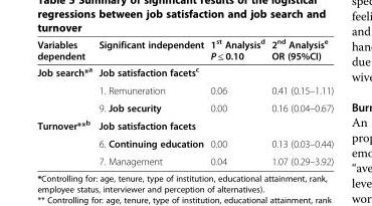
<table><thead><tr><td>Variables dependent</td><td>Significant independent</td><td>1<sup>st</sup> Analysis<sup>d</sup> P ≤ 0.10</td><td>2<sup>nd</sup> Analysis<sup>e</sup> OR (95%CI)</td></tr></thead><tbody><tr><td rowspan="3">Job search*<sup>a</sup></td><td>Job satisfaction facets<sup>c</sup></td><td></td><td></td></tr><tr><td>1. Remuneration</td><td>0.06</td><td>0.41 (0.15–1.11)</td></tr><tr><td>9. Job security</td><td>0.00</td><td>0.16 (0.04–0.67)</td></tr><tr><td rowspan="3">Turnover**<sup>b</sup></td><td>Job satisfaction facets</td><td></td><td></td></tr><tr><td>6. Continuing education</td><td>0.00</td><td>0.13 (0.03–0.44)</td></tr><tr><td>7. Management</td><td>0.04</td><td>1.07 (0.29–3.92)</td></tr></tbody></table>